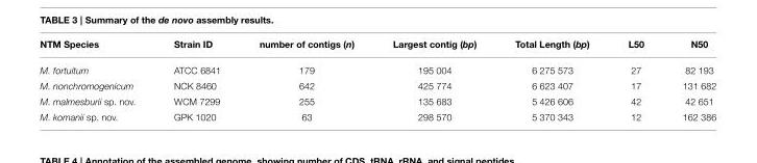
<table><thead><tr><td>NTM Species</td><td>Strain ID</td><td>number of contigs (n)</td><td>Largest contig (bp)</td><td>Total Length (bp)</td><td>L50</td><td>N50</td></tr></thead><tbody><tr><td>M. fortuitum</td><td>ATCC 6841</td><td>179</td><td>195 004</td><td>6 275 573</td><td>27</td><td>82 193</td></tr><tr><td>M. nonchromogenicum</td><td>NCK 8460</td><td>642</td><td>425 774</td><td>6 623 407</td><td>17</td><td>131 682</td></tr><tr><td>M. malmesburii sp. nov.</td><td>WCM 7299</td><td>255</td><td>135 683</td><td>5 426 606</td><td>42</td><td>42 651</td></tr><tr><td>M. komanii sp. nov.</td><td>GPK 1020</td><td>63</td><td>298 570</td><td>5 370 343</td><td>12</td><td>162 386</td></tr></tbody></table>